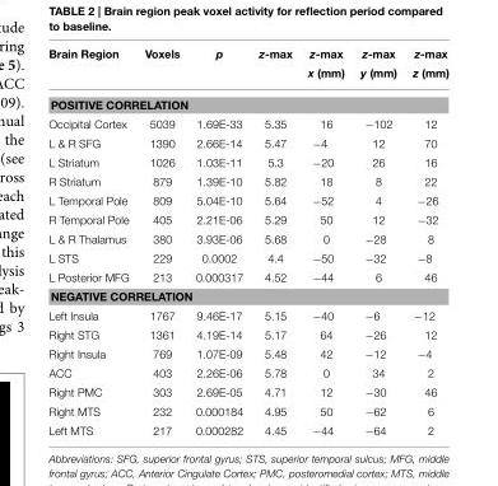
<table><thead><tr><td rowspan="2">Brain Region</td><td rowspan="2">Voxels</td><td rowspan="2">p</td><td rowspan="2">z-max</td><td rowspan="2">z-max x (mm)</td><td rowspan="2">z-max y (mm)</td><td rowspan="2">z-max z (mm)</td></tr><tr></tr></thead><tbody><tr><td colspan="7">POSITIVE CORRELATION</td></tr><tr><td>Occipital Cortex</td><td>5039</td><td>1.69E-33</td><td>5.35</td><td>16</td><td>−102</td><td>12</td></tr><tr><td>L &amp; R SFG</td><td>1390</td><td>2.66E-14</td><td>5.47</td><td>−4</td><td>12</td><td>70</td></tr><tr><td>L Striatum</td><td>1026</td><td>1.03E-11</td><td>5.3</td><td>−20</td><td>26</td><td>16</td></tr><tr><td>R Striatum</td><td>879</td><td>1.39E-10</td><td>5.82</td><td>18</td><td>8</td><td>22</td></tr><tr><td>L Temporal Pole</td><td>809</td><td>5.04E-10</td><td>5.64</td><td>−52</td><td>4</td><td>−26</td></tr><tr><td>R Temporal Pole</td><td>405</td><td>2.21E-06</td><td>5.29</td><td>50</td><td>12</td><td>−32</td></tr><tr><td>L &amp; R Thalamus</td><td>380</td><td>3.93E-06</td><td>5.68</td><td>0</td><td>−28</td><td>8</td></tr><tr><td>L STS</td><td>229</td><td>0.0002</td><td>4.4</td><td>−50</td><td>−32</td><td>−8</td></tr><tr><td>L Posterior MFG</td><td>213</td><td>0.000317</td><td>4.52</td><td>−44</td><td>6</td><td>46</td></tr><tr><td colspan="7">NEGATIVE CORRELATION</td></tr><tr><td>Left Insula</td><td>1767</td><td>9.46E-17</td><td>5.15</td><td>−40</td><td>−6</td><td>−12</td></tr><tr><td>Right STG</td><td>1361</td><td>4.19E-14</td><td>5.17</td><td>64</td><td>−26</td><td>12</td></tr><tr><td>Right Insula</td><td>769</td><td>1.07E-09</td><td>5.48</td><td>42</td><td>−12</td><td>−4</td></tr><tr><td>ACC</td><td>403</td><td>2.26E-06</td><td>5.78</td><td>0</td><td>34</td><td>2</td></tr><tr><td>Right PMC</td><td>303</td><td>2.69E-05</td><td>4.71</td><td>12</td><td>−30</td><td>46</td></tr><tr><td>Right MTS</td><td>232</td><td>0.000184</td><td>4.95</td><td>50</td><td>−62</td><td>6</td></tr><tr><td>Left MTS</td><td>217</td><td>0.000282</td><td>4.45</td><td>−44</td><td>−64</td><td>2</td></tr></tbody></table>